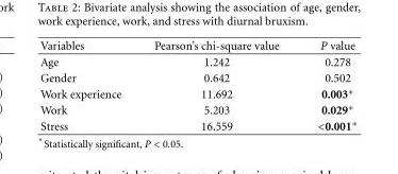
<table><thead><tr><td>Variables</td><td>Pearson’s chi-square value</td><td>P value</td></tr></thead><tbody><tr><td>Age</td><td>1.242</td><td>0.278</td></tr><tr><td>Gender</td><td>0.642</td><td>0.502</td></tr><tr><td>Work experience</td><td>11.692</td><td>0.003∗</td></tr><tr><td>Work</td><td>5.203</td><td>0.029∗</td></tr><tr><td>Stress</td><td>16.559</td><td>&lt;0.001∗</td></tr></tbody></table>